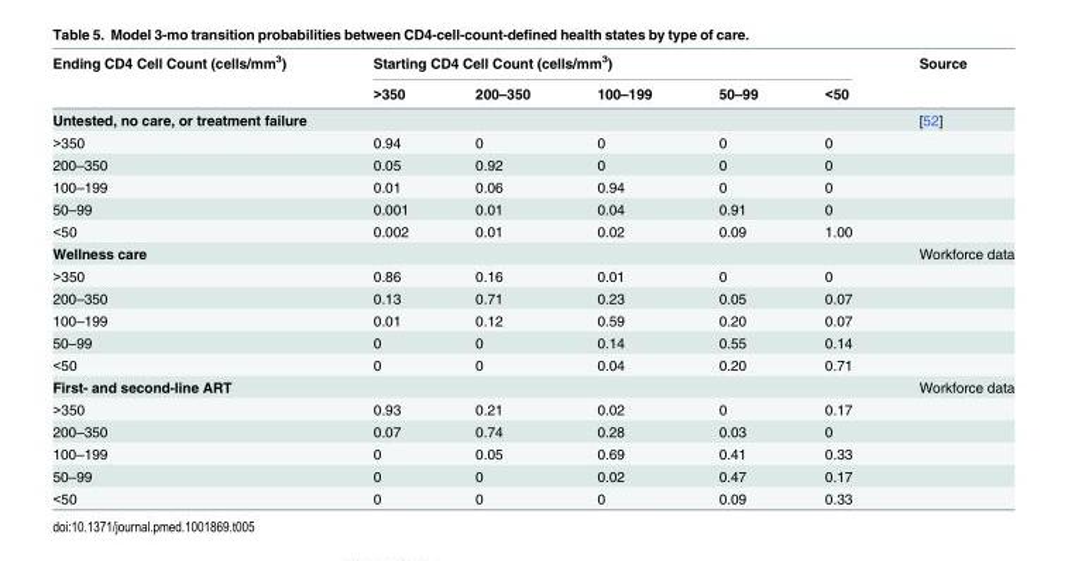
<table><thead><tr><td rowspan="2">Ending CD4 Cell Count (cells/mm<sup>3</sup>)</td><td colspan="5">Starting CD4 Cell Count (cells/mm<sup>3</sup>)</td><td rowspan="2">Source</td></tr><tr><td>&gt;350</td><td>200–350</td><td>100–199</td><td>50–99</td><td>&lt;50</td></tr></thead><tbody><tr><td>Untested, no care, or treatment failure</td><td></td><td></td><td></td><td></td><td></td><td>[52]</td></tr><tr><td>&gt;350</td><td>0.94</td><td>0</td><td>0</td><td>0</td><td>0</td><td></td></tr><tr><td>200–350</td><td>0.05</td><td>0.92</td><td>0</td><td>0</td><td>0</td><td></td></tr><tr><td>100–199</td><td>0.01</td><td>0.06</td><td>0.94</td><td>0</td><td>0</td><td></td></tr><tr><td>50–99</td><td>0.001</td><td>0.01</td><td>0.04</td><td>0.91</td><td>0</td><td></td></tr><tr><td>&lt;50</td><td>0.002</td><td>0.01</td><td>0.02</td><td>0.09</td><td>1.00</td><td></td></tr><tr><td>Wellness care</td><td></td><td></td><td></td><td></td><td></td><td>Workforce data</td></tr><tr><td>&gt;350</td><td>0.86</td><td>0.16</td><td>0.01</td><td>0</td><td>0</td><td></td></tr><tr><td>200–350</td><td>0.13</td><td>0.71</td><td>0.23</td><td>0.05</td><td>0.07</td><td></td></tr><tr><td>100–199</td><td>0.01</td><td>0.12</td><td>0.59</td><td>0.20</td><td>0.07</td><td></td></tr><tr><td>50–99</td><td>0</td><td>0</td><td>0.14</td><td>0.55</td><td>0.14</td><td></td></tr><tr><td>&lt;50</td><td>0</td><td>0</td><td>0.04</td><td>0.20</td><td>0.71</td><td></td></tr><tr><td>First- and second-line ART</td><td></td><td></td><td></td><td></td><td></td><td>Workforce data</td></tr><tr><td>&gt;350</td><td>0.93</td><td>0.21</td><td>0.02</td><td>0</td><td>0.17</td><td></td></tr><tr><td>200–350</td><td>0.07</td><td>0.74</td><td>0.28</td><td>0.03</td><td>0</td><td></td></tr><tr><td>100–199</td><td>0</td><td>0.05</td><td>0.69</td><td>0.41</td><td>0.33</td><td></td></tr><tr><td>50–99</td><td>0</td><td>0</td><td>0.02</td><td>0.47</td><td>0.17</td><td></td></tr><tr><td>&lt;50</td><td>0</td><td>0</td><td>0</td><td>0.09</td><td>0.33</td><td></td></tr></tbody></table>